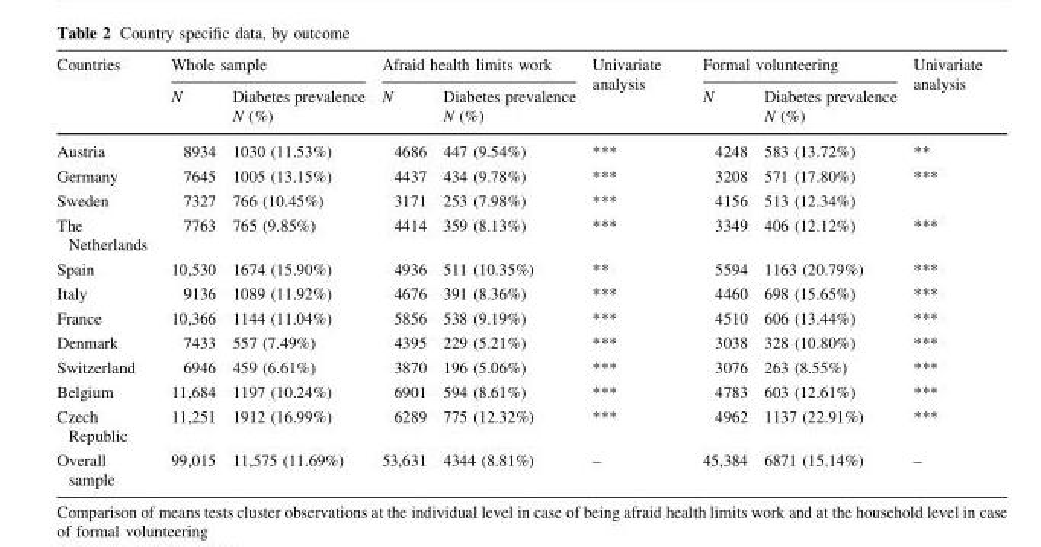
<table><thead><tr><td rowspan="2">Countries</td><td colspan="2">Whole sample</td><td colspan="2">Afraid health limits work</td><td rowspan="2">Univariate analysis</td><td colspan="2">Formal volunteering</td><td rowspan="2">Univariate analysis</td></tr><tr><td>N</td><td>Diabetes prevalence N (%)</td><td>N</td><td>Diabetes prevalence N (%)</td><td>N</td><td>Diabetes prevalence N (%)</td></tr></thead><tbody><tr><td>Austria</td><td>8934</td><td>1030 (11.53%)</td><td>4686</td><td>447 (9.54%)</td><td>***</td><td>4248</td><td>583 (13.72%)</td><td>**</td></tr><tr><td>Germany</td><td>7645</td><td>1005 (13.15%)</td><td>4437</td><td>434 (9.78%)</td><td>***</td><td>3208</td><td>571 (17.80%)</td><td>***</td></tr><tr><td>Sweden</td><td>7327</td><td>766 (10.45%)</td><td>3171</td><td>253 (7.98%)</td><td>***</td><td>4156</td><td>513 (12.34%)</td><td></td></tr><tr><td>The Netherlands</td><td>7763</td><td>765 (9.85%)</td><td>4414</td><td>359 (8.13%)</td><td>***</td><td>3349</td><td>406 (12.12%)</td><td>***</td></tr><tr><td>Spain</td><td>10,530</td><td>1674 (15.90%)</td><td>4936</td><td>511 (10.35%)</td><td>**</td><td>5594</td><td>1163 (20.79%)</td><td>***</td></tr><tr><td>Italy</td><td>9136</td><td>1089 (11.92%)</td><td>4676</td><td>391 (8.36%)</td><td>***</td><td>4460</td><td>698 (15.65%)</td><td>***</td></tr><tr><td>France</td><td>10,366</td><td>1144 (11.04%)</td><td>5856</td><td>538 (9.19%)</td><td>***</td><td>4510</td><td>606 (13.44%)</td><td>***</td></tr><tr><td>Denmark</td><td>7433</td><td>557 (7.49%)</td><td>4395</td><td>229 (5.21%)</td><td>***</td><td>3038</td><td>328 (10.80%)</td><td>***</td></tr><tr><td>Switzerland</td><td>6946</td><td>459 (6.61%)</td><td>3870</td><td>196 (5.06%)</td><td>***</td><td>3076</td><td>263 (8.55%)</td><td>***</td></tr><tr><td>Belgium</td><td>11,684</td><td>1197 (10.24%)</td><td>6901</td><td>594 (8.61%)</td><td>***</td><td>4783</td><td>603 (12.61%)</td><td>***</td></tr><tr><td>Czech Republic</td><td>11,251</td><td>1912 (16.99%)</td><td>6289</td><td>775 (12.32%)</td><td>***</td><td>4962</td><td>1137 (22.91%)</td><td>***</td></tr><tr><td>Overall sample</td><td>99,015</td><td>11,575 (11.69%)</td><td>53,631</td><td>4344 (8.81%)</td><td>–</td><td>45,384</td><td>6871 (15.14%)</td><td>–</td></tr></tbody></table>